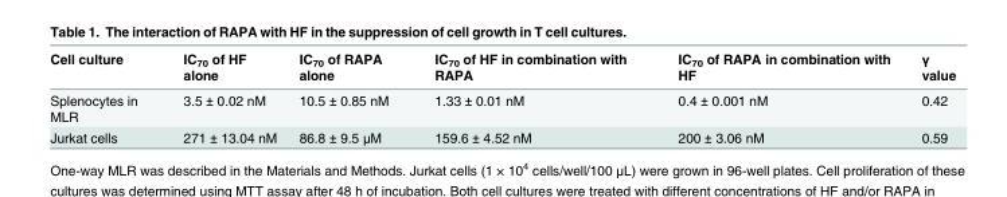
<table><thead><tr><td>Cell culture</td><td>IC<sub>70</sub> of HF alone</td><td>IC<sub>70</sub> of RAPA alone</td><td>IC<sub>70</sub> of HF in combination with RAPA</td><td>IC<sub>70</sub> of RAPA in combination with HF</td><td>γ value</td></tr></thead><tbody><tr><td>Splenocytes in MLR</td><td>3.5 ± 0.02 nM</td><td>10.5 ± 0.85 nM</td><td>1.33 ± 0.01 nM</td><td>0.4 ± 0.001 nM</td><td>0.42</td></tr><tr><td>Jurkat cells</td><td>271 ± 13.04 nM</td><td>86.8 ± 9.5 μM</td><td>159.6 ± 4.52 nM</td><td>200 ± 3.06 nM</td><td>0.59</td></tr></tbody></table>